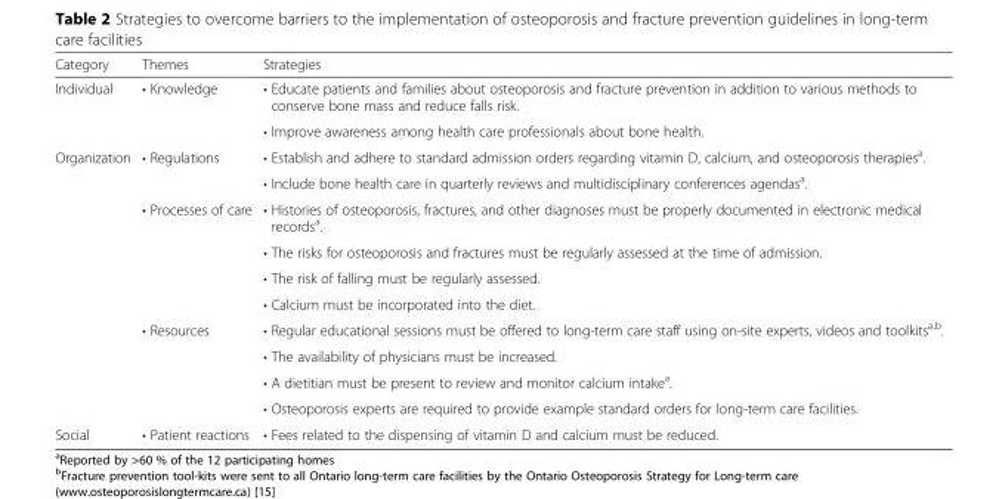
<table><thead><tr><td>Category</td><td>Themes</td><td>Strategies</td></tr></thead><tbody><tr><td rowspan="2">Individual</td><td rowspan="2">• Knowledge</td><td>• Educate patients and families about osteoporosis and fracture prevention in addition to various methods to conserve bone mass and reduce falls risk.</td></tr><tr><td>• Improve awareness among health care professionals about bone health.</td></tr><tr><td rowspan="10">Organization</td><td rowspan="2">• Regulations</td><td>• Establish and adhere to standard admission orders regarding vitamin D, calcium, and osteoporosis therapies<sup>a</sup>.</td></tr><tr><td>• Include bone health care in quarterly reviews and multidisciplinary conferences agendas<sup>a</sup>.</td></tr><tr><td rowspan="4">• Processes of care</td><td>• Histories of osteoporosis, fractures, and other diagnoses must be properly documented in electronic medical records<sup>a</sup>.</td></tr><tr><td>• The risks for osteoporosis and fractures must be regularly assessed at the time of admission.</td></tr><tr><td>• The risk of falling must be regularly assessed.</td></tr><tr><td>• Calcium must be incorporated into the diet.</td></tr><tr><td rowspan="4">• Resources</td><td>• Regular educational sessions must be offered to long-term care staff using on-site experts, videos and toolkits<sup>a,b</sup>.</td></tr><tr><td>• The availability of physicians must be increased.</td></tr><tr><td>• A dietitian must be present to review and monitor calcium intake<sup>a</sup>.</td></tr><tr><td>• Osteoporosis experts are required to provide example standard orders for long-term care facilities.</td></tr><tr><td>Social</td><td>• Patient reactions</td><td>• Fees related to the dispensing of vitamin D and calcium must be reduced.</td></tr></tbody></table>